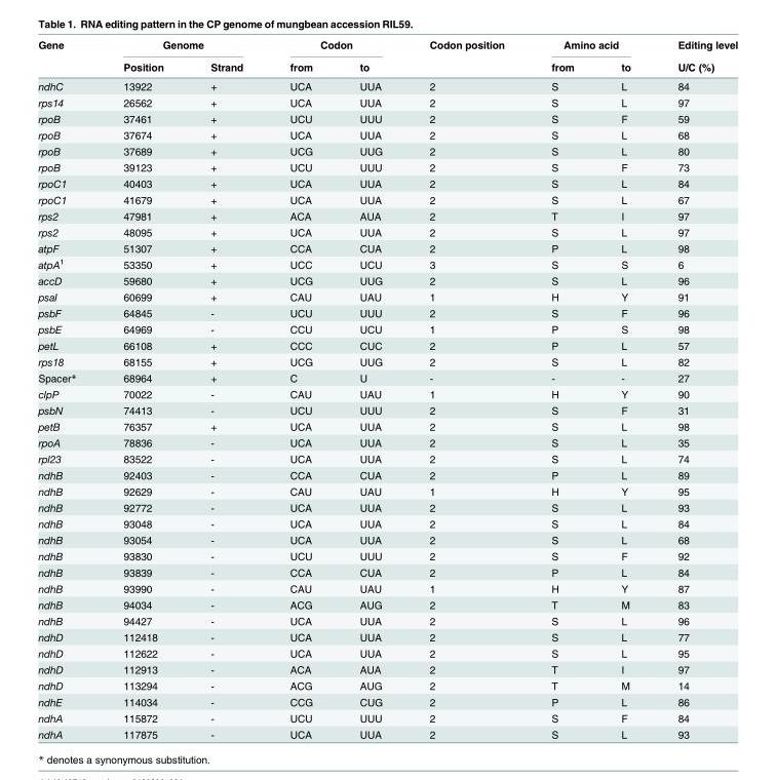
<table><thead><tr><td rowspan="2">Gene</td><td colspan="2">Genome</td><td colspan="2">Codon</td><td rowspan="2">Codon position</td><td colspan="2">Amino acid</td><td rowspan="2">Editing level U/C (%)</td></tr><tr><td>Position</td><td>Strand</td><td>from</td><td>to</td><td>from</td><td>to</td></tr></thead><tbody><tr><td>ndhC</td><td>13922</td><td>+</td><td>UCA</td><td>UUA</td><td>2</td><td>S</td><td>L</td><td>84</td></tr><tr><td>rps14</td><td>26562</td><td>+</td><td>UCA</td><td>UUA</td><td>2</td><td>S</td><td>L</td><td>97</td></tr><tr><td>rpoB</td><td>37461</td><td>+</td><td>UCU</td><td>UUU</td><td>2</td><td>S</td><td>F</td><td>59</td></tr><tr><td>rpoB</td><td>37674</td><td>+</td><td>UCA</td><td>UUA</td><td>2</td><td>S</td><td>L</td><td>68</td></tr><tr><td>rpoB</td><td>37689</td><td>+</td><td>UCG</td><td>UUG</td><td>2</td><td>S</td><td>L</td><td>80</td></tr><tr><td>rpoB</td><td>39123</td><td>+</td><td>UCU</td><td>UUU</td><td>2</td><td>S</td><td>F</td><td>73</td></tr><tr><td>rpoC1</td><td>40403</td><td>+</td><td>UCA</td><td>UUA</td><td>2</td><td>S</td><td>L</td><td>84</td></tr><tr><td>rpoC1</td><td>41679</td><td>+</td><td>UCA</td><td>UUA</td><td>2</td><td>S</td><td>L</td><td>67</td></tr><tr><td>rps2</td><td>47981</td><td>+</td><td>ACA</td><td>AUA</td><td>2</td><td>T</td><td>I</td><td>97</td></tr><tr><td>rps2</td><td>48095</td><td>+</td><td>UCA</td><td>UUA</td><td>2</td><td>S</td><td>L</td><td>97</td></tr><tr><td>atpF</td><td>51307</td><td>+</td><td>CCA</td><td>CUA</td><td>2</td><td>P</td><td>L</td><td>98</td></tr><tr><td>atpA<sup>1</sup></td><td>53350</td><td>+</td><td>UCC</td><td>UCU</td><td>3</td><td>S</td><td>S</td><td>6</td></tr><tr><td>accD</td><td>59680</td><td>+</td><td>UCG</td><td>UUG</td><td>2</td><td>S</td><td>L</td><td>96</td></tr><tr><td>psaI</td><td>60699</td><td>+</td><td>CAU</td><td>UAU</td><td>1</td><td>H</td><td>Y</td><td>91</td></tr><tr><td>psbF</td><td>64845</td><td>-</td><td>UCU</td><td>UUU</td><td>2</td><td>S</td><td>F</td><td>96</td></tr><tr><td>psbE</td><td>64969</td><td>-</td><td>CCU</td><td>UCU</td><td>1</td><td>P</td><td>S</td><td>98</td></tr><tr><td>petL</td><td>66108</td><td>+</td><td>CCC</td><td>CUC</td><td>2</td><td>P</td><td>L</td><td>57</td></tr><tr><td>rps18</td><td>68155</td><td>+</td><td>UCG</td><td>UUG</td><td>2</td><td>S</td><td>L</td><td>82</td></tr><tr><td>Spacer*</td><td>68964</td><td>+</td><td>C</td><td>U</td><td>-</td><td>-</td><td>-</td><td>27</td></tr><tr><td>clpP</td><td>70022</td><td>-</td><td>CAU</td><td>UAU</td><td>1</td><td>H</td><td>Y</td><td>90</td></tr><tr><td>psbN</td><td>74413</td><td>-</td><td>UCU</td><td>UUU</td><td>2</td><td>S</td><td>F</td><td>31</td></tr><tr><td>petB</td><td>76357</td><td>+</td><td>UCA</td><td>UUA</td><td>2</td><td>S</td><td>L</td><td>98</td></tr><tr><td>rpoA</td><td>78836</td><td>-</td><td>UCA</td><td>UUA</td><td>2</td><td>S</td><td>L</td><td>35</td></tr><tr><td>rpl23</td><td>83522</td><td>-</td><td>UCA</td><td>UUA</td><td>2</td><td>S</td><td>L</td><td>74</td></tr><tr><td>ndhB</td><td>92403</td><td>-</td><td>CCA</td><td>CUA</td><td>2</td><td>P</td><td>L</td><td>89</td></tr><tr><td>ndhB</td><td>92629</td><td>-</td><td>CAU</td><td>UAU</td><td>1</td><td>H</td><td>Y</td><td>95</td></tr><tr><td>ndhB</td><td>92772</td><td>-</td><td>UCA</td><td>UUA</td><td>2</td><td>S</td><td>L</td><td>93</td></tr><tr><td>ndhB</td><td>93048</td><td>-</td><td>UCA</td><td>UUA</td><td>2</td><td>S</td><td>L</td><td>84</td></tr><tr><td>ndhB</td><td>93054</td><td>-</td><td>UCA</td><td>UUA</td><td>2</td><td>S</td><td>L</td><td>68</td></tr><tr><td>ndhB</td><td>93830</td><td>-</td><td>UCU</td><td>UUU</td><td>2</td><td>S</td><td>F</td><td>92</td></tr><tr><td>ndhB</td><td>93839</td><td>-</td><td>CCA</td><td>CUA</td><td>2</td><td>P</td><td>L</td><td>84</td></tr><tr><td>ndhB</td><td>93990</td><td>-</td><td>CAU</td><td>UAU</td><td>1</td><td>H</td><td>Y</td><td>87</td></tr><tr><td>ndhB</td><td>94034</td><td>-</td><td>ACG</td><td>AUG</td><td>2</td><td>T</td><td>M</td><td>83</td></tr><tr><td>ndhB</td><td>94427</td><td>-</td><td>UCA</td><td>UUA</td><td>2</td><td>S</td><td>L</td><td>96</td></tr><tr><td>ndhD</td><td>112418</td><td>-</td><td>UCA</td><td>UUA</td><td>2</td><td>S</td><td>L</td><td>77</td></tr><tr><td>ndhD</td><td>112622</td><td>-</td><td>UCA</td><td>UUA</td><td>2</td><td>S</td><td>L</td><td>95</td></tr><tr><td>ndhD</td><td>112913</td><td>-</td><td>ACA</td><td>AUA</td><td>2</td><td>T</td><td>I</td><td>97</td></tr><tr><td>ndhD</td><td>113294</td><td>-</td><td>ACG</td><td>AUG</td><td>2</td><td>T</td><td>M</td><td>14</td></tr><tr><td>ndhE</td><td>114034</td><td>-</td><td>CCG</td><td>CUG</td><td>2</td><td>P</td><td>L</td><td>86</td></tr><tr><td>ndhA</td><td>115872</td><td>-</td><td>UCU</td><td>UUU</td><td>2</td><td>S</td><td>F</td><td>84</td></tr><tr><td>ndhA</td><td>117875</td><td>-</td><td>UCA</td><td>UUA</td><td>2</td><td>S</td><td>L</td><td>93</td></tr></tbody></table>